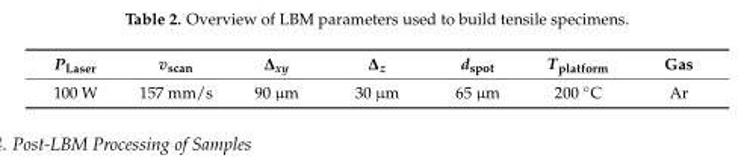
<table><thead><tr><td>P<sub>Laser</sub></td><td>v<sub>scan</sub></td><td>∆xy</td><td>∆z</td><td>d<sub>spot</sub></td><td>T<sub>platform</sub></td><td>Gas</td></tr></thead><tbody><tr><td>100 W</td><td>157 mm/s</td><td>90 µm</td><td>30 µm</td><td>65 µm</td><td>200 ◦C</td><td>Ar</td></tr></tbody></table>